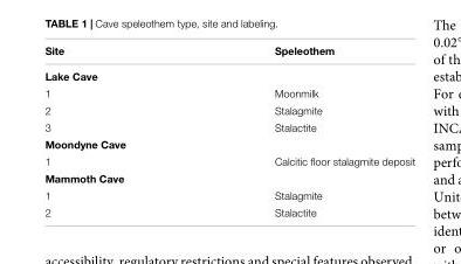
<table><thead><tr><td>Site</td><td>Speleothem</td></tr></thead><tbody><tr><td colspan="2">Lake Cave</td></tr><tr><td>1</td><td>Moonmilk</td></tr><tr><td>2</td><td>Stalagmite</td></tr><tr><td>3</td><td>Stalactite</td></tr><tr><td colspan="2">Moondyne Cave</td></tr><tr><td>1</td><td>Calcitic floor stalagmite deposit</td></tr><tr><td colspan="2">Mammoth Cave</td></tr><tr><td>1</td><td>Stalagmite</td></tr><tr><td>2</td><td>Stalactite</td></tr></tbody></table>